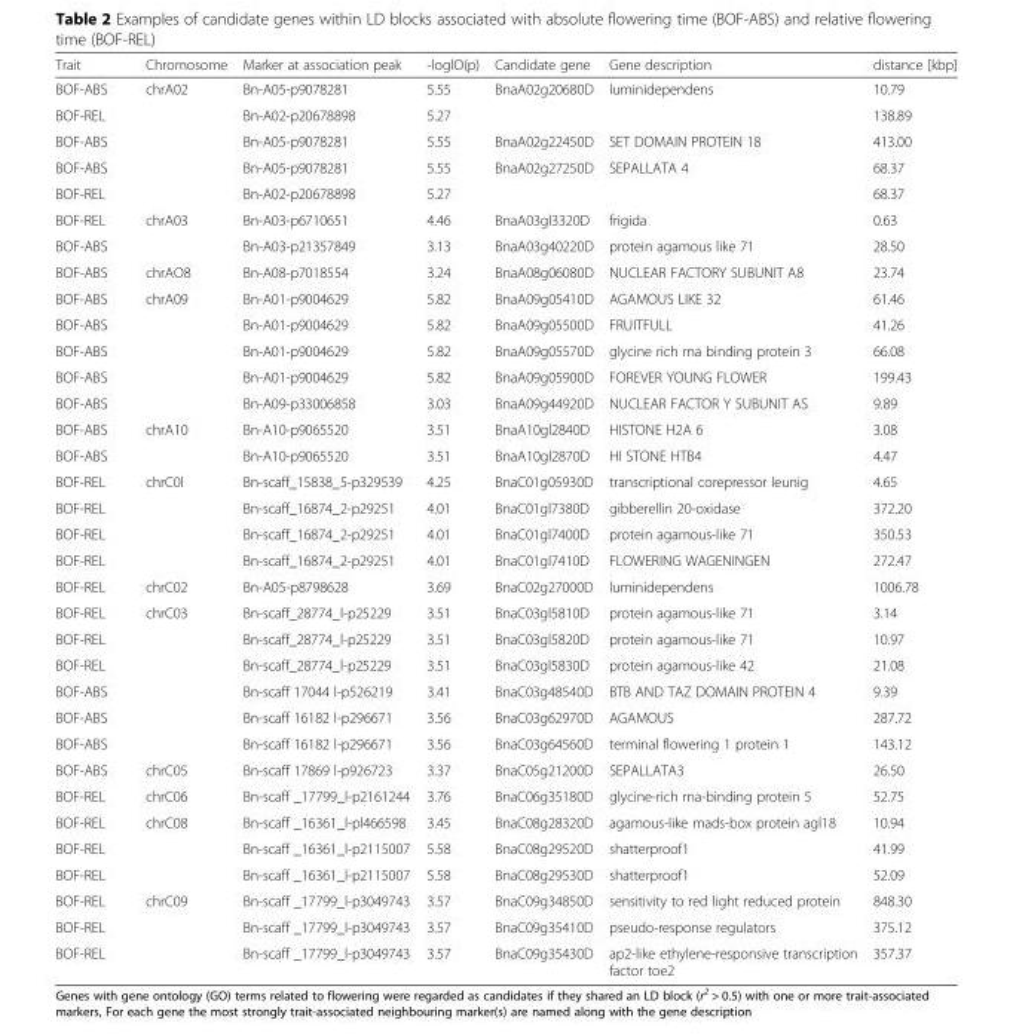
<table><thead><tr><td>Trait</td><td>Chromosome</td><td>Marker at association peak</td><td>-loglO(p)</td><td>Candidate gene</td><td>Gene description</td><td>distance [kbp]</td></tr></thead><tbody><tr><td>BOF-ABS</td><td>chrA02</td><td>Bn-A05-p9078281</td><td>5.55</td><td rowspan="2">BnaA02g20680D</td><td rowspan="2">luminidependens</td><td>10.79</td></tr><tr><td>BOF-REL</td><td></td><td>Bn-A02-p20678898</td><td>5.27</td><td>138.89</td></tr><tr><td>BOF-ABS</td><td></td><td>Bn-A05-p9078281</td><td>5.55</td><td>BnaA02g22450D</td><td>SET DOMAIN PROTEIN 18</td><td>413.00</td></tr><tr><td>BOF-ABS</td><td></td><td>Bn-A05-p9078281</td><td>5.55</td><td rowspan="2">BnaA02g27250D</td><td rowspan="2">SEPALLATA 4</td><td>68.37</td></tr><tr><td>BOF-REL</td><td></td><td>Bn-A02-p20678898</td><td>5.27</td><td>68.37</td></tr><tr><td>BOF-REL</td><td>chrA03</td><td>Bn-A03-p6710651</td><td>4.46</td><td>BnaA03gl3320D</td><td>frigida</td><td>0.63</td></tr><tr><td>BOF-ABS</td><td></td><td>Bn-A03-p21357849</td><td>3.13</td><td>BnaA03g40220D</td><td>protein agamous like 71</td><td>28.50</td></tr><tr><td>BOF-ABS</td><td>chrAO8</td><td>Bn-A08-p7018554</td><td>3.24</td><td>BnaA08g06080D</td><td>NUCLEAR FACTORY SUBUNIT A8</td><td>23.74</td></tr><tr><td>BOF-ABS</td><td>chrA09</td><td>Bn-A01-p9004629</td><td>5.82</td><td>BnaA09g05410D</td><td>AGAMOUS LIKE 32</td><td>61.46</td></tr><tr><td>BOF-ABS</td><td></td><td>Bn-A01-p9004629</td><td>5.82</td><td>BnaA09g05500D</td><td>FRUITFULL</td><td>41.26</td></tr><tr><td>BOF-ABS</td><td></td><td>Bn-A01-p9004629</td><td>5.82</td><td>BnaA09g05570D</td><td>glycine rich rna binding protein 3</td><td>66.08</td></tr><tr><td>BOF-ABS</td><td></td><td>Bn-A01-p9004629</td><td>5.82</td><td>BnaA09g05900D</td><td>FOREVER YOUNG FLOWER</td><td>199.43</td></tr><tr><td>BOF-ABS</td><td></td><td>Bn-A09-p33006858</td><td>3.03</td><td>BnaA09g44920D</td><td>NUCLEAR FACTOR Y SUBUNIT AS</td><td>9.89</td></tr><tr><td>BOF-ABS</td><td>chrA10</td><td>Bn-A10-p9065520</td><td>3.51</td><td>BnaA10gl2840D</td><td>HISTONE H2A 6</td><td>3.08</td></tr><tr><td>BOF-ABS</td><td></td><td>Bn-A10-p9065520</td><td>3.51</td><td>BnaA10gl2870D</td><td>HI STONE HTB4</td><td>4.47</td></tr><tr><td>BOF-REL</td><td>chrC0l</td><td>Bn-scaff_15838_5-p329539</td><td>4.25</td><td>BnaC01g05930D</td><td>transcriptional corepressor leunig</td><td>4.65</td></tr><tr><td>BOF-REL</td><td></td><td>Bn-scaff_16874_2-p29251</td><td>4.01</td><td>BnaC01gl7380D</td><td>gibberellin 20-oxidase</td><td>372.20</td></tr><tr><td>BOF-REL</td><td></td><td>Bn-scaff_16874_2-p29251</td><td>4.01</td><td>BnaC01gl7400D</td><td>protein agamous-like 71</td><td>350.53</td></tr><tr><td>BOF-REL</td><td></td><td>Bn-scaff_16874_2-p29251</td><td>4.01</td><td>BnaC01gl7410D</td><td>FLOWERING WAGENINGEN</td><td>272.47</td></tr><tr><td>BOF-REL</td><td>chrC02</td><td>Bn-A05-p8798628</td><td>3.69</td><td>BnaC02g27000D</td><td>luminidependens</td><td>1006.78</td></tr><tr><td>BOF-REL</td><td>chrC03</td><td>Bn-scaff_28774_l-p25229</td><td>3.51</td><td>BnaC03gl5810D</td><td>protein agamous-like 71</td><td>3.14</td></tr><tr><td>BOF-REL</td><td></td><td>Bn-scaff_28774_l-p25229</td><td>3.51</td><td>BnaC03gl5820D</td><td>protein agamous-like 71</td><td>10.97</td></tr><tr><td>BOF-REL</td><td></td><td>Bn-scaff_28774_l-p25229</td><td>3.51</td><td>BnaC03gl5830D</td><td>protein agamous-like 42</td><td>21.08</td></tr><tr><td>BOF-ABS</td><td></td><td>Bn-scaff 17044 l-p526219</td><td>3.41</td><td>BnaC03g48540D</td><td>BTB AND TAZ DOMAIN PROTEIN 4</td><td>9.39</td></tr><tr><td>BOF-ABS</td><td></td><td>Bn-scaff 16182 l-p296671</td><td>3.56</td><td>BnaC03g62970D</td><td>AGAMOUS</td><td>287.72</td></tr><tr><td>BOF-ABS</td><td></td><td>Bn-scaff 16182 l-p296671</td><td>3.56</td><td>BnaC03g64560D</td><td>terminal flowering 1 protein 1</td><td>143.12</td></tr><tr><td>BOF-ABS</td><td>chrC05</td><td>Bn-scaff 17869 l-p926723</td><td>3.37</td><td>BnaC05g21200D</td><td>SEPALLATA3</td><td>26.50</td></tr><tr><td>BOF-REL</td><td>chrC06</td><td>Bn-scaff _17799_l-p2161244</td><td>3.76</td><td>BnaC06g35180D</td><td>glycine-rich rna-binding protein 5</td><td>52.75</td></tr><tr><td>BOF-REL</td><td>chrC08</td><td>Bn-scaff _16361_l-pl466598</td><td>3.45</td><td>BnaC08g28320D</td><td>agamous-like mads-box protein agl18</td><td>10.94</td></tr><tr><td>BOF-REL</td><td></td><td>Bn-scaff _16361_l-p2115007</td><td>5.58</td><td>BnaC08g29520D</td><td>shatterproof1</td><td>41.99</td></tr><tr><td>BOF-REL</td><td></td><td>Bn-scaff _16361_l-p2115007</td><td>5.58</td><td>BnaC08g29530D</td><td>shatterproof1</td><td>52.09</td></tr><tr><td>BOF-REL</td><td>chrC09</td><td>Bn-scaff _17799_l-p3049743</td><td>3.57</td><td>BnaC09g34850D</td><td>sensitivity to red light reduced protein</td><td>848.30</td></tr><tr><td>BOF-REL</td><td></td><td>Bn-scaff _17799_l-p3049743</td><td>3.57</td><td>BnaC09g35410D</td><td>pseudo-response regulators</td><td>375.12</td></tr><tr><td>BOF-REL</td><td></td><td>Bn-scaff _17799_l-p3049743</td><td>3.57</td><td>BnaC09g35430D</td><td>ap2-like ethylene-responsive transcription factor toe2</td><td>357.37</td></tr></tbody></table>